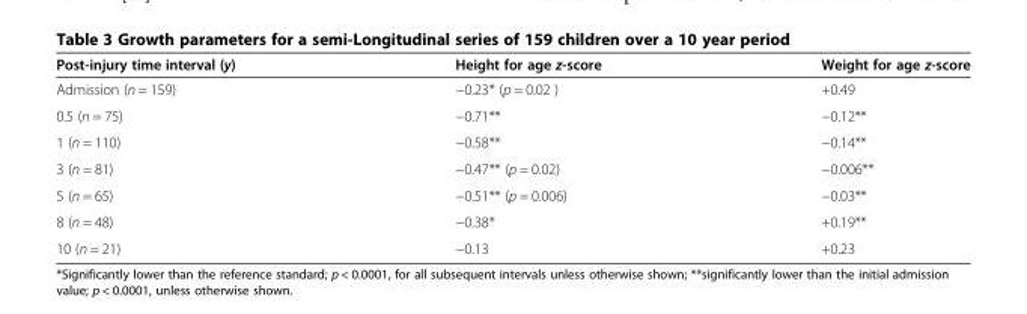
<table><thead><tr><td>Post-injury time interval (y)</td><td>Height for age z-score</td><td>Weight for age z-score</td></tr></thead><tbody><tr><td>Admission (n = 159)</td><td>−0.23* (p = 0.02 )</td><td>+0.49</td></tr><tr><td>0.5 (n = 75)</td><td>−0.71**</td><td>−0.12**</td></tr><tr><td>1 (n = 110)</td><td>−0.58**</td><td>−0.14**</td></tr><tr><td>3 (n = 81)</td><td>−0.47** (p = 0.02)</td><td>−0.006**</td></tr><tr><td>5 (n = 65)</td><td>−0.51** (p = 0.006)</td><td>−0.03**</td></tr><tr><td>8 (n = 48)</td><td>−0.38*</td><td>+0.19**</td></tr><tr><td>10 (n = 21)</td><td>−0.13</td><td>+0.23</td></tr></tbody></table>